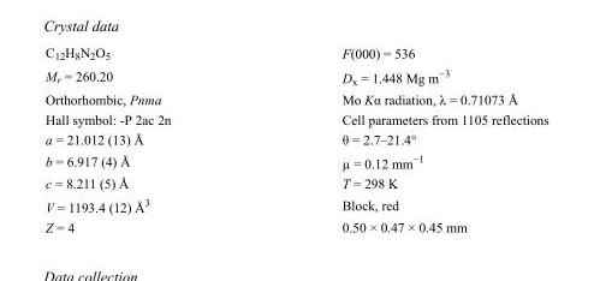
<table><tbody><tr><td>C<sub>12</sub>H<sub>8</sub>N<sub>2</sub>O<sub>5</sub></td><td>F(000) = 536</td></tr><tr><td>M<sub>r</sub> = 260.20</td><td>D<sub>x</sub> = 1.448 Mg m<sup>−3</sup></td></tr><tr><td>Orthorhombic, Pnma</td><td>Mo Kα radiation, λ = 0.71073 Å</td></tr><tr><td>Hall symbol: -P 2ac 2n</td><td>Cell parameters from 1105 reflections</td></tr><tr><td>a = 21.012 (13) Å</td><td>θ = 2.7–21.4°</td></tr><tr><td>b = 6.917 (4) Å</td><td>µ = 0.12 mm<sup>−1</sup></td></tr><tr><td>c = 8.211 (5) Å</td><td>T = 298 K</td></tr><tr><td>V = 1193.4 (12) Å<sup>3</sup></td><td>Block, red</td></tr><tr><td>Z = 4</td><td>0.50 × 0.47 × 0.45 mm</td></tr></tbody></table>